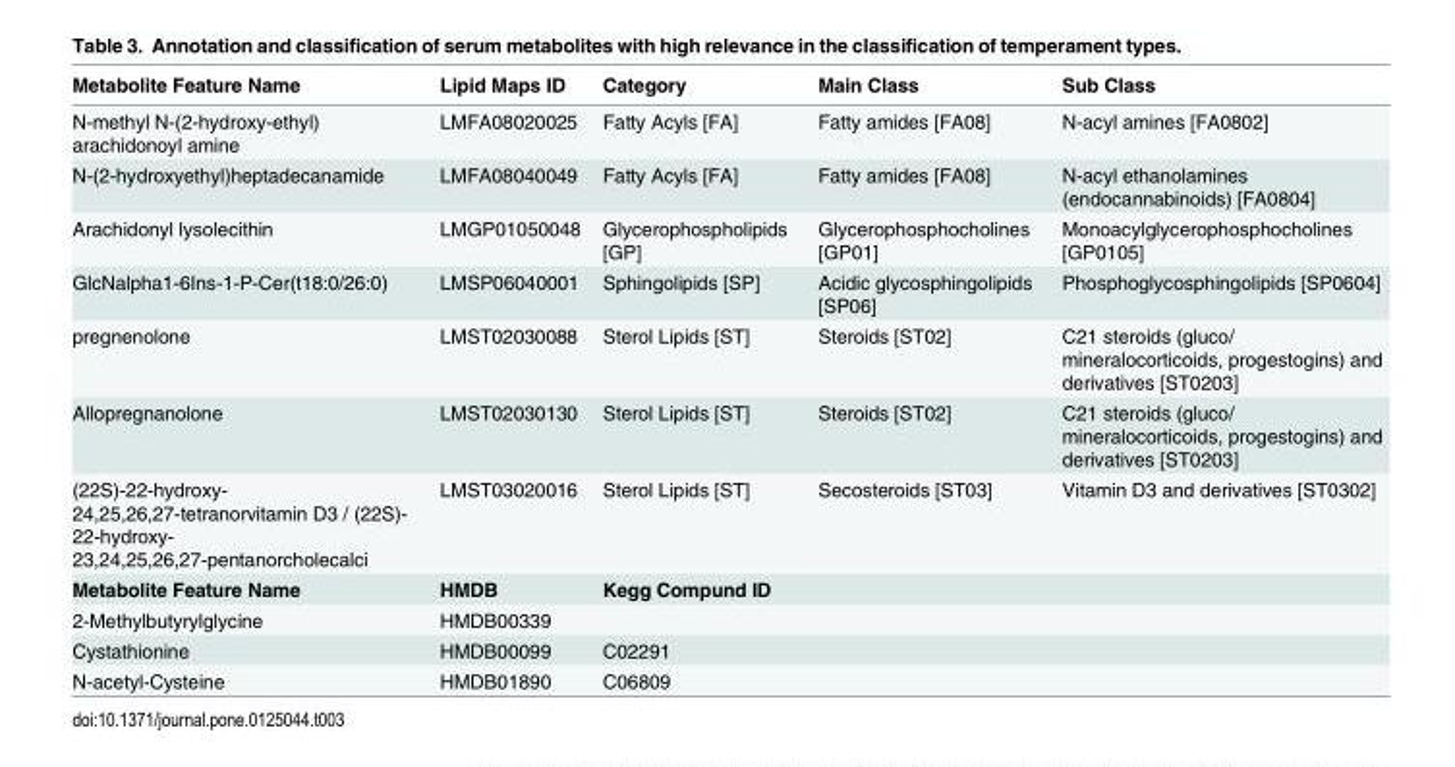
<table><thead><tr><td>Metabolite Feature Name</td><td>Lipid Maps ID</td><td>Category</td><td>Main Class</td><td>Sub Class</td></tr></thead><tbody><tr><td>N-methyl N-(2-hydroxy-ethyl) arachidonoyl amine</td><td>LMFA08020025</td><td>Fatty Acyls [FA]</td><td>Fatty amides [FA08]</td><td>N-acyl amines [FA0802]</td></tr><tr><td>N-(2-hydroxyethyl)heptadecanamide</td><td>LMFA08040049</td><td>Fatty Acyls [FA]</td><td>Fatty amides [FA08]</td><td>N-acyl ethanolamines (endocannabinoids) [FA0804]</td></tr><tr><td>Arachidonyl lysolecithin</td><td>LMGP01050048</td><td>Glycerophospholipids [GP]</td><td>Glycerophosphocholines [GP01]</td><td>Monoacylglycerophosphocholines [GP0105]</td></tr><tr><td>GlcNalpha1-6Ins-1-P-Cer(t18:0/26:0)</td><td>LMSP06040001</td><td>Sphingolipids [SP]</td><td>Acidic glycosphingolipids [SP06]</td><td>Phosphoglycosphingolipids [SP0604]</td></tr><tr><td>pregnenolone</td><td>LMST02030088</td><td>Sterol Lipids [ST]</td><td>Steroids [ST02]</td><td>C21 steroids (gluco/ mineralocorticoids, progestogins) and derivatives [ST0203]</td></tr><tr><td>Allopregnanolone</td><td>LMST02030130</td><td>Sterol Lipids [ST]</td><td>Steroids [ST02]</td><td>C21 steroids (gluco/ mineralocorticoids, progestogins) and derivatives [ST0203]</td></tr><tr><td>(22S)-22-hydroxy- 24,25,26,27-tetranorvitamin D3 / (22S)- 22-hydroxy- 23,24,25,26,27-pentanorcholecalci</td><td>LMST03020016</td><td>Sterol Lipids [ST]</td><td>Secosteroids [ST03]</td><td>Vitamin D3 and derivatives [ST0302]</td></tr><tr><td>Metabolite Feature Name</td><td>HMDB</td><td>Kegg Compund ID</td><td></td><td></td></tr><tr><td>2-Methylbutyrylglycine</td><td>HMDB00339</td><td></td><td></td><td></td></tr><tr><td>Cystathionine</td><td>HMDB00099</td><td>C02291</td><td></td><td></td></tr><tr><td>N-acetyl-Cysteine</td><td>HMDB01890</td><td>C06809</td><td></td><td></td></tr></tbody></table>